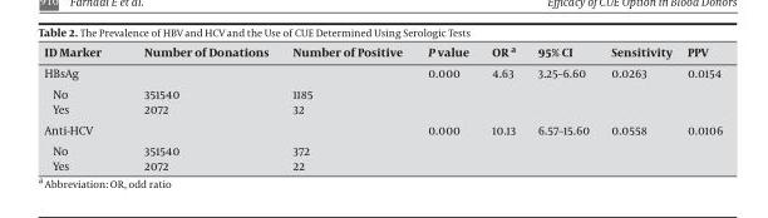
<table><thead><tr><td>ID Marker</td><td>Number of Donations</td><td>Number of Positive</td><td>P value</td><td>OR <sup>a</sup></td><td>95% CI</td><td>Sensitivity</td><td>PPV</td></tr></thead><tbody><tr><td colspan="3">HBsAg</td><td>0.000</td><td>4.63</td><td>3.25–6.60</td><td>0.0263</td><td>0.0154</td></tr><tr><td>No</td><td>351540</td><td>1185</td><td rowspan="2" colspan="5"></td></tr><tr><td>Yes</td><td>2072</td><td>32</td></tr><tr><td colspan="3">Anti-HCV</td><td>0.000</td><td>10.13</td><td>6.57–15.60</td><td>0.0558</td><td>0.0106</td></tr><tr><td>No</td><td>351540</td><td>372</td><td rowspan="2" colspan="5"></td></tr><tr><td>Yes</td><td>2072</td><td>22</td></tr></tbody></table>